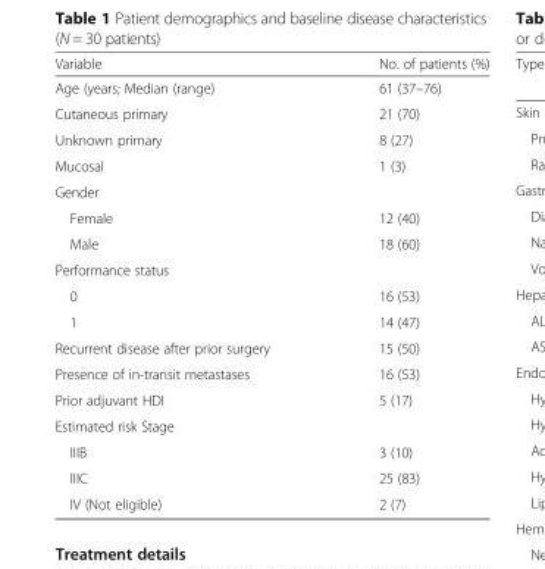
<table><thead><tr><td>Variable</td><td>No. of patients (%)</td></tr></thead><tbody><tr><td>Age (years; Median (range)</td><td>61 (37–76)</td></tr><tr><td>Cutaneous primary</td><td>21 (70)</td></tr><tr><td>Unknown primary</td><td>8 (27)</td></tr><tr><td>Mucosal</td><td>1 (3)</td></tr><tr><td colspan="2">Gender</td></tr><tr><td>Female</td><td>12 (40)</td></tr><tr><td>Male</td><td>18 (60)</td></tr><tr><td colspan="2">Performance status</td></tr><tr><td>0</td><td>16 (53)</td></tr><tr><td>1</td><td>14 (47)</td></tr><tr><td>Recurrent disease after prior surgery</td><td>15 (50)</td></tr><tr><td>Presence of in-transit metastases</td><td>16 (53)</td></tr><tr><td>Prior adjuvant HDI</td><td>5 (17)</td></tr><tr><td colspan="2">Estimated risk Stage</td></tr><tr><td>IIIB</td><td>3 (10)</td></tr><tr><td>IIIC</td><td>25 (83)</td></tr><tr><td>IV (Not eligible)</td><td>2 (7)</td></tr></tbody></table>